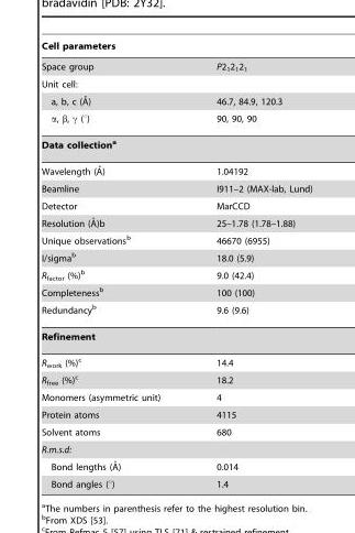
<table><thead><tr><td>Cell parameters</td><td></td></tr></thead><tbody><tr><td>Space group</td><td>P2<sub>1</sub>2<sub>1</sub>2<sub>1</sub></td></tr><tr><td colspan="2">Unit cell:</td></tr><tr><td>a, b, c (A˚)</td><td>46.7, 84.9, 120.3</td></tr><tr><td>α, β, γ (°)</td><td>90, 90, 90</td></tr><tr><td colspan="2">Data collectiona</td></tr><tr><td>Wavelength (A˚)</td><td>1.04192</td></tr><tr><td>Beamline</td><td>I911–2 (MAX-lab, Lund)</td></tr><tr><td>Detector</td><td>MarCCD</td></tr><tr><td>Resolution (A˚)b</td><td>25–1.78 (1.78–1.88)</td></tr><tr><td>Unique observations<sup>b</sup></td><td>46670 (6955)</td></tr><tr><td>I/sigma<sup>b</sup></td><td>18.0 (5.9)</td></tr><tr><td>R<sub>factor</sub> (%)<sup>b</sup></td><td>9.0 (42.4)</td></tr><tr><td>Completeness<sup>b</sup></td><td>100 (100)</td></tr><tr><td>Redundancy<sup>b</sup></td><td>9.6 (9.6)</td></tr><tr><td colspan="2">Refinement</td></tr><tr><td>R<sub>work</sub> (%)<sup>c</sup></td><td>14.4</td></tr><tr><td>R<sub>free</sub> (%)<sup>c</sup></td><td>18.2</td></tr><tr><td>Monomers (asymmetric unit)</td><td>4</td></tr><tr><td>Protein atoms</td><td>4115</td></tr><tr><td>Solvent atoms</td><td>680</td></tr><tr><td colspan="2">R.m.s.d:</td></tr><tr><td>Bond lengths (A˚)</td><td>0.014</td></tr><tr><td>Bond angles (°)</td><td>1.4</td></tr></tbody></table>